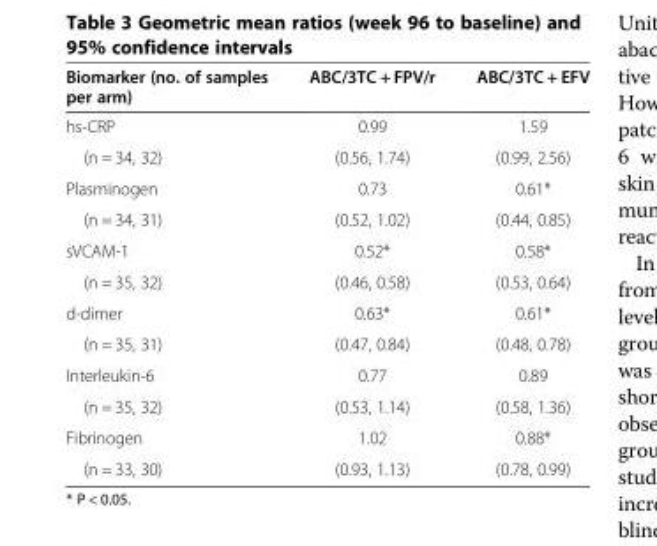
<table><thead><tr><td>Biomarker (no. of samples per arm)</td><td>ABC/3TC + FPV/r</td><td>ABC/3TC + EFV</td></tr></thead><tbody><tr><td>hs-CRP</td><td>0.99</td><td>1.59</td></tr><tr><td>(n = 34, 32)</td><td>(0.56, 1.74)</td><td>(0.99, 2.56)</td></tr><tr><td>Plasminogen</td><td>0.73</td><td>0.61*</td></tr><tr><td>(n = 34, 31)</td><td>(0.52, 1.02)</td><td>(0.44, 0.85)</td></tr><tr><td>sVCAM-1</td><td>0.52*</td><td>0.58*</td></tr><tr><td>(n = 35, 32)</td><td>(0.46, 0.58)</td><td>(0.53, 0.64)</td></tr><tr><td>d-dimer</td><td>0.63*</td><td>0.61*</td></tr><tr><td>(n = 35, 31)</td><td>(0.47, 0.84)</td><td>(0.48, 0.78)</td></tr><tr><td>Interleukin-6</td><td>0.77</td><td>0.89</td></tr><tr><td>(n = 35, 32)</td><td>(0.53, 1.14)</td><td>(0.58, 1.36)</td></tr><tr><td>Fibrinogen</td><td>1.02</td><td>0.88*</td></tr><tr><td>(n = 33, 30)</td><td>(0.93, 1.13)</td><td>(0.78, 0.99)</td></tr></tbody></table>